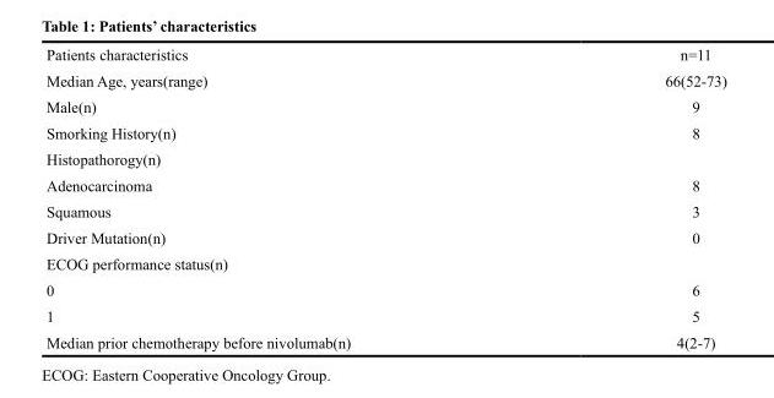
<table><tbody><tr><td>Patients characteristics</td><td>n=11</td></tr><tr><td>Median Age, years(range)</td><td>66(52-73)</td></tr><tr><td>Male(n)</td><td>9</td></tr><tr><td>Smorking History(n)</td><td>8</td></tr><tr><td colspan="2">Histopathorogy(n)</td></tr><tr><td>Adenocarcinoma</td><td>8</td></tr><tr><td>Squamous</td><td>3</td></tr><tr><td>Driver Mutation(n)</td><td>0</td></tr><tr><td colspan="2">ECOG performance status(n)</td></tr><tr><td>0</td><td>6</td></tr><tr><td>1</td><td>5</td></tr><tr><td>Median prior chemotherapy before nivolumab(n)</td><td>4(2-7)</td></tr></tbody></table>